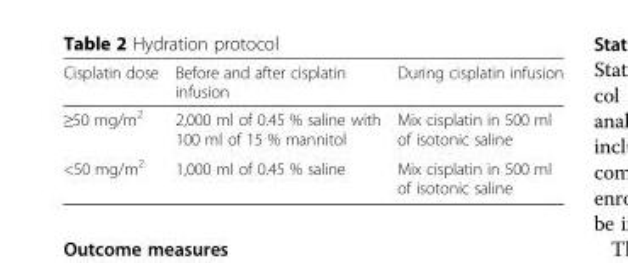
<table><thead><tr><td>Cisplatin dose</td><td>Before and after cisplatin infusion</td><td>During cisplatin infusion</td></tr></thead><tbody><tr><td>≥50 mg/m<sup>2</sup></td><td>2,000 ml of 0.45 % saline with 100 ml of 15 % mannitol</td><td>Mix cisplatin in 500 ml of isotonic saline</td></tr><tr><td>&lt;50 mg/m<sup>2</sup></td><td>1,000 ml of 0.45 % saline</td><td>Mix cisplatin in 500 ml of isotonic saline</td></tr></tbody></table>